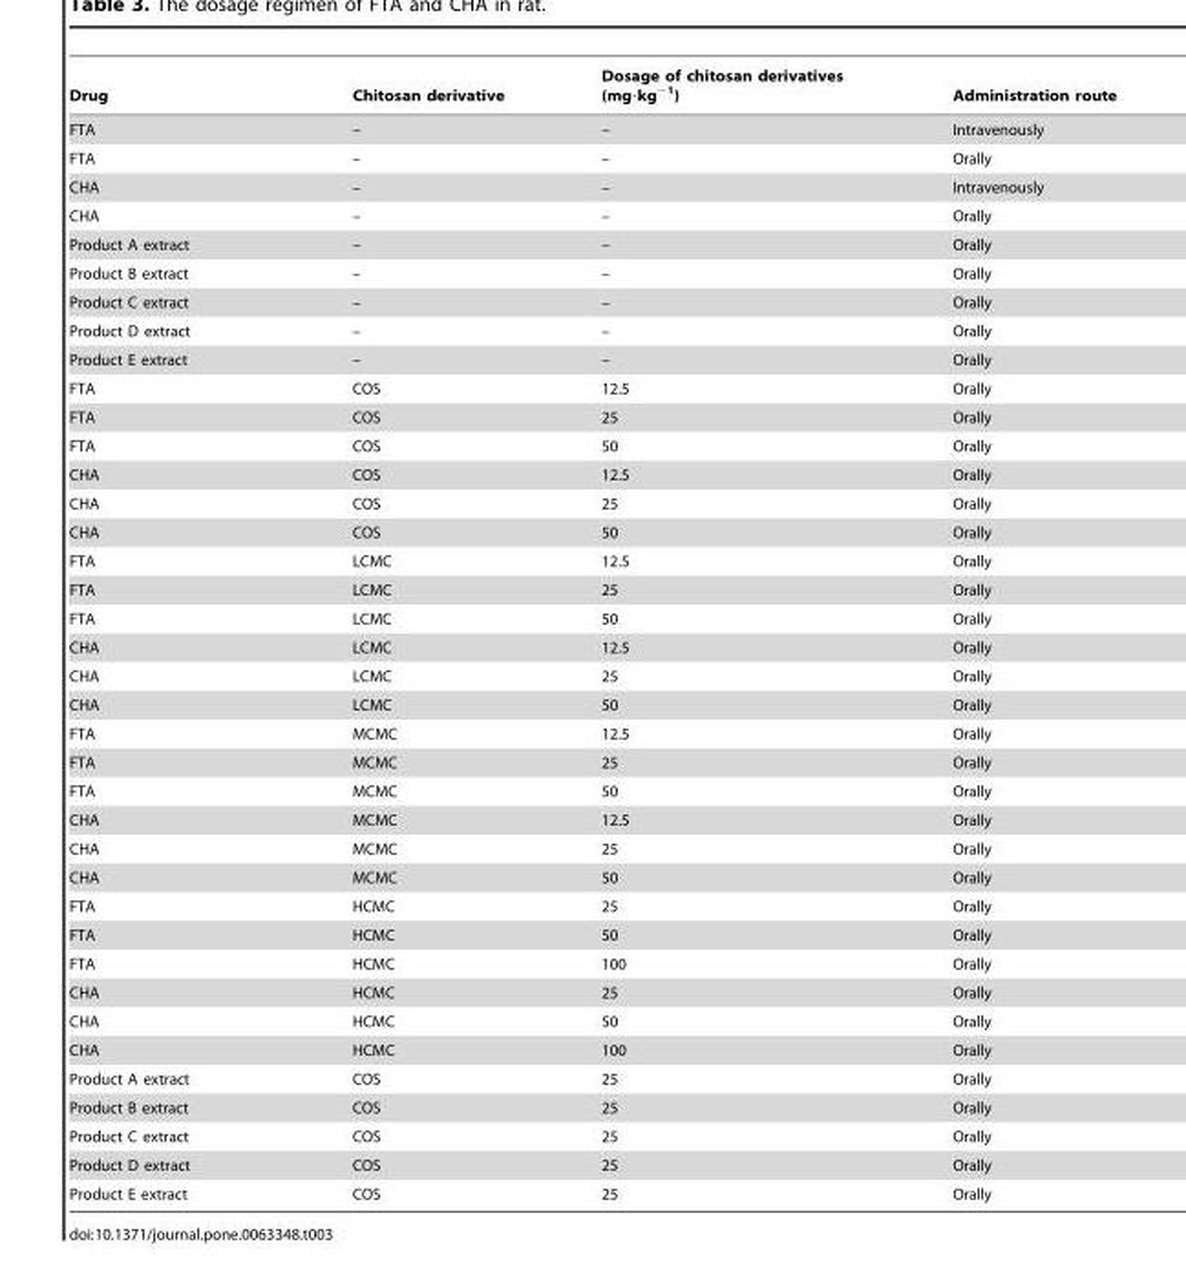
<table><thead><tr><td>Drug</td><td>Chitosan derivative</td><td>Dosage of chitosan derivatives (mg·kg<sup>−1</sup>)</td><td>Administration route</td></tr></thead><tbody><tr><td>FTA</td><td>–</td><td>–</td><td>Intravenously</td></tr><tr><td>FTA</td><td>–</td><td>–</td><td>Orally</td></tr><tr><td>CHA</td><td>–</td><td>–</td><td>Intravenously</td></tr><tr><td>CHA</td><td>–</td><td>–</td><td>Orally</td></tr><tr><td>Product A extract</td><td>–</td><td>–</td><td>Orally</td></tr><tr><td>Product B extract</td><td>–</td><td>–</td><td>Orally</td></tr><tr><td>Product C extract</td><td>–</td><td>–</td><td>Orally</td></tr><tr><td>Product D extract</td><td>–</td><td>–</td><td>Orally</td></tr><tr><td>Product E extract</td><td>–</td><td>–</td><td>Orally</td></tr><tr><td>FTA</td><td>COS</td><td>12.5</td><td>Orally</td></tr><tr><td>FTA</td><td>COS</td><td>25</td><td>Orally</td></tr><tr><td>FTA</td><td>COS</td><td>50</td><td>Orally</td></tr><tr><td>CHA</td><td>COS</td><td>12.5</td><td>Orally</td></tr><tr><td>CHA</td><td>COS</td><td>25</td><td>Orally</td></tr><tr><td>CHA</td><td>COS</td><td>50</td><td>Orally</td></tr><tr><td>FTA</td><td>LCMC</td><td>12.5</td><td>Orally</td></tr><tr><td>FTA</td><td>LCMC</td><td>25</td><td>Orally</td></tr><tr><td>FTA</td><td>LCMC</td><td>50</td><td>Orally</td></tr><tr><td>CHA</td><td>LCMC</td><td>12.5</td><td>Orally</td></tr><tr><td>CHA</td><td>LCMC</td><td>25</td><td>Orally</td></tr><tr><td>CHA</td><td>LCMC</td><td>50</td><td>Orally</td></tr><tr><td>FTA</td><td>MCMC</td><td>12.5</td><td>Orally</td></tr><tr><td>FTA</td><td>MCMC</td><td>25</td><td>Orally</td></tr><tr><td>FTA</td><td>MCMC</td><td>50</td><td>Orally</td></tr><tr><td>CHA</td><td>MCMC</td><td>12.5</td><td>Orally</td></tr><tr><td>CHA</td><td>MCMC</td><td>25</td><td>Orally</td></tr><tr><td>CHA</td><td>MCMC</td><td>50</td><td>Orally</td></tr><tr><td>FTA</td><td>HCMC</td><td>25</td><td>Orally</td></tr><tr><td>FTA</td><td>HCMC</td><td>50</td><td>Orally</td></tr><tr><td>FTA</td><td>HCMC</td><td>100</td><td>Orally</td></tr><tr><td>CHA</td><td>HCMC</td><td>25</td><td>Orally</td></tr><tr><td>CHA</td><td>HCMC</td><td>50</td><td>Orally</td></tr><tr><td>CHA</td><td>HCMC</td><td>100</td><td>Orally</td></tr><tr><td>Product A extract</td><td>COS</td><td>25</td><td>Orally</td></tr><tr><td>Product B extract</td><td>COS</td><td>25</td><td>Orally</td></tr><tr><td>Product C extract</td><td>COS</td><td>25</td><td>Orally</td></tr><tr><td>Product D extract</td><td>COS</td><td>25</td><td>Orally</td></tr><tr><td>Product E extract</td><td>COS</td><td>25</td><td>Orally</td></tr></tbody></table>